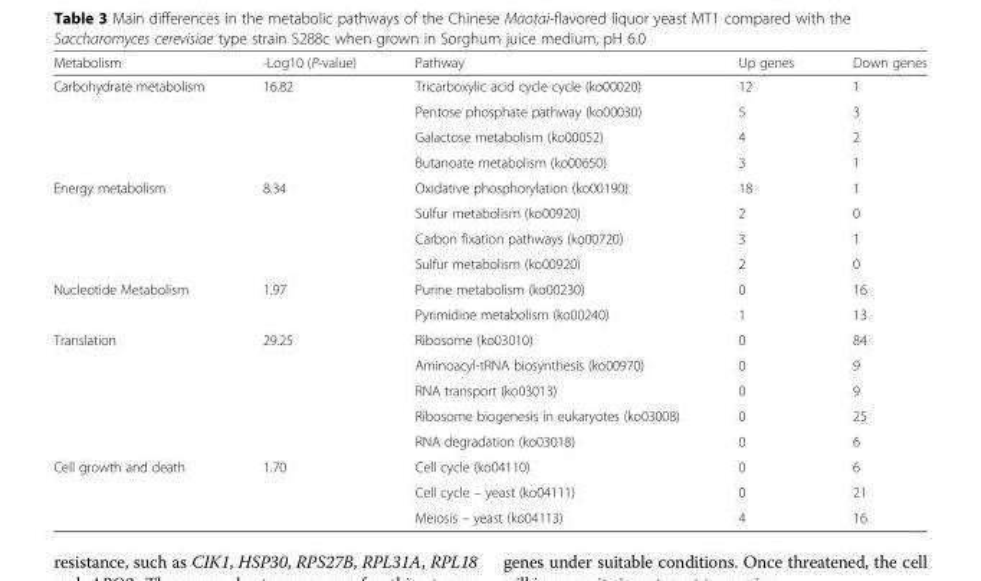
<table><thead><tr><td>Metabolism</td><td>-Log10 (P-value)</td><td>Pathway</td><td>Up genes</td><td>Down genes</td></tr></thead><tbody><tr><td rowspan="4">Carbohydrate metabolism</td><td rowspan="4">16.82</td><td>Tricarboxylic acid cycle cycle (ko00020)</td><td>12</td><td>1</td></tr><tr><td>Pentose phosphate pathway (ko00030)</td><td>5</td><td>3</td></tr><tr><td>Galactose metabolism (ko00052)</td><td>4</td><td>2</td></tr><tr><td>Butanoate metabolism (ko00650)</td><td>3</td><td>1</td></tr><tr><td rowspan="4">Energy metabolism</td><td rowspan="4">8.34</td><td>Oxidative phosphorylation (ko00190)</td><td>18</td><td>1</td></tr><tr><td>Sulfur metabolism (ko00920)</td><td>2</td><td>0</td></tr><tr><td>Carbon fixation pathways (ko00720)</td><td>3</td><td>1</td></tr><tr><td>Sulfur metabolism (ko00920)</td><td>2</td><td>0</td></tr><tr><td rowspan="2">Nucleotide Metabolism</td><td rowspan="2">1.97</td><td>Purine metabolism (ko00230)</td><td>0</td><td>16</td></tr><tr><td>Pyrimidine metabolism (ko00240)</td><td>1</td><td>13</td></tr><tr><td rowspan="5">Translation</td><td rowspan="5">29.25</td><td>Ribosome (ko03010)</td><td>0</td><td>84</td></tr><tr><td>Aminoacyl-tRNA biosynthesis (ko00970)</td><td>0</td><td>9</td></tr><tr><td>RNA transport (ko03013)</td><td>0</td><td>9</td></tr><tr><td>Ribosome biogenesis in eukaryotes (ko03008)</td><td>0</td><td>25</td></tr><tr><td>RNA degradation (ko03018)</td><td>0</td><td>6</td></tr><tr><td rowspan="3">Cell growth and death</td><td rowspan="3">1.70</td><td>Cell cycle (ko04110)</td><td>0</td><td>6</td></tr><tr><td>Cell cycle – yeast (ko04111)</td><td>0</td><td>21</td></tr><tr><td>Meiosis – yeast (ko04113)</td><td>4</td><td>16</td></tr></tbody></table>